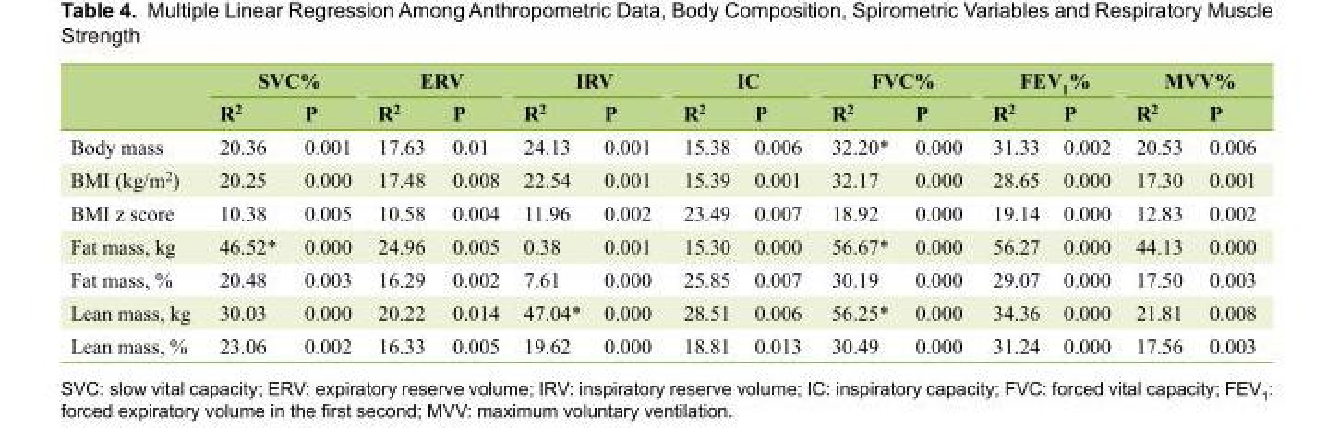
<table><thead><tr><td rowspan="2"></td><td colspan="2">SVC%</td><td colspan="2">ERV</td><td colspan="2">IRV</td><td colspan="2">IC</td><td colspan="2">FVC%</td><td colspan="2">FEV<sub>1</sub>%</td><td colspan="2">MVV%</td></tr><tr><td>R<sup>2</sup></td><td>P</td><td>R<sup>2</sup></td><td>P</td><td>R<sup>2</sup></td><td>P</td><td>R<sup>2</sup></td><td>P</td><td>R<sup>2</sup></td><td>P</td><td>R<sup>2</sup></td><td>P</td><td>R<sup>2</sup></td><td>P</td></tr></thead><tbody><tr><td>Body mass</td><td>20.36</td><td>0.001</td><td>17.63</td><td>0.01</td><td>24.13</td><td>0.001</td><td>15.38</td><td>0.006</td><td>32.20*</td><td>0.000</td><td>31.33</td><td>0.002</td><td>20.53</td><td>0.006</td></tr><tr><td>BMI (kg/m<sup>2</sup>)</td><td>20.25</td><td>0.000</td><td>17.48</td><td>0.008</td><td>22.54</td><td>0.001</td><td>15.39</td><td>0.001</td><td>32.17</td><td>0.000</td><td>28.65</td><td>0.000</td><td>17.30</td><td>0.001</td></tr><tr><td>BMI z score</td><td>10.38</td><td>0.005</td><td>10.58</td><td>0.004</td><td>11.96</td><td>0.002</td><td>23.49</td><td>0.007</td><td>18.92</td><td>0.000</td><td>19.14</td><td>0.000</td><td>12.83</td><td>0.002</td></tr><tr><td>Fat mass, kg</td><td>46.52*</td><td>0.000</td><td>24.96</td><td>0.005</td><td>0.38</td><td>0.001</td><td>15.30</td><td>0.000</td><td>56.67*</td><td>0.000</td><td>56.27</td><td>0.000</td><td>44.13</td><td>0.000</td></tr><tr><td>Fat mass, %</td><td>20.48</td><td>0.003</td><td>16.29</td><td>0.002</td><td>7.61</td><td>0.000</td><td>25.85</td><td>0.007</td><td>30.19</td><td>0.000</td><td>29.07</td><td>0.000</td><td>17.50</td><td>0.003</td></tr><tr><td>Lean mass, kg</td><td>30.03</td><td>0.000</td><td>20.22</td><td>0.014</td><td>47.04*</td><td>0.000</td><td>28.51</td><td>0.006</td><td>56.25*</td><td>0.000</td><td>34.36</td><td>0.000</td><td>21.81</td><td>0.008</td></tr><tr><td>Lean mass, %</td><td>23.06</td><td>0.002</td><td>16.33</td><td>0.005</td><td>19.62</td><td>0.000</td><td>18.81</td><td>0.013</td><td>30.49</td><td>0.000</td><td>31.24</td><td>0.000</td><td>17.56</td><td>0.003</td></tr></tbody></table>